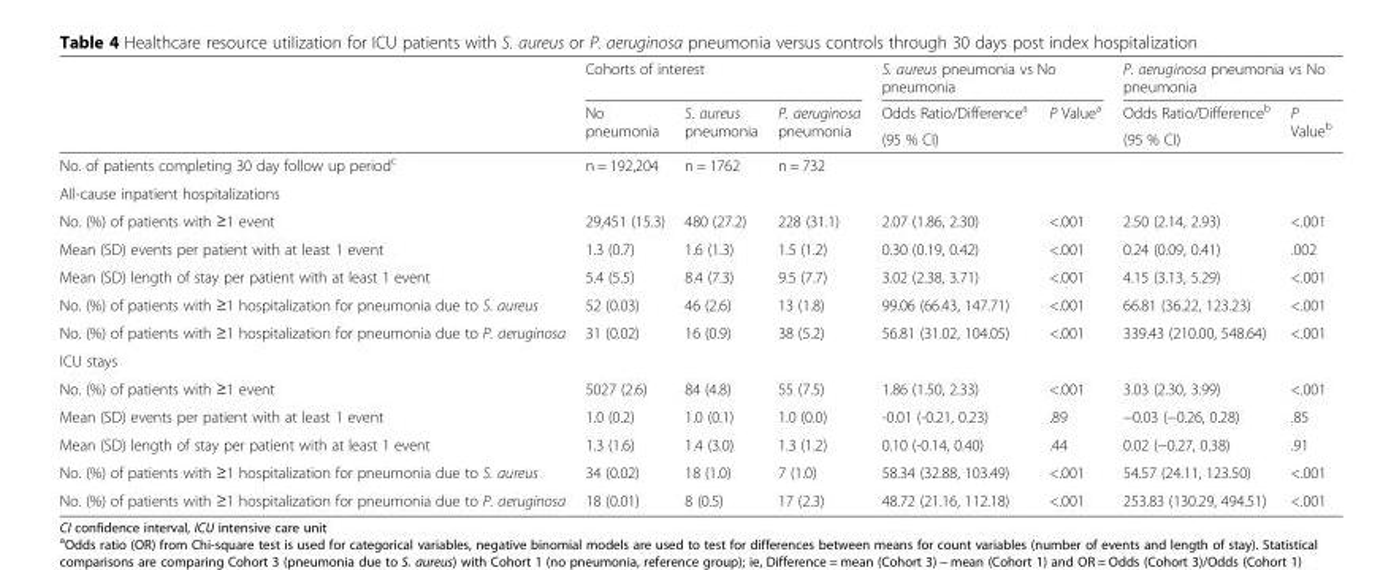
<table><thead><tr><td rowspan="3"></td><td colspan="3">Cohorts of interest</td><td colspan="2">S. aureus pneumonia vs No pneumonia</td><td colspan="2">P. aeruginosa pneumonia vs No pneumonia</td></tr><tr><td rowspan="2">No pneumonia</td><td rowspan="2">S. aureus pneumonia</td><td rowspan="2">P. aeruginosa pneumonia</td><td rowspan="2">Odds Ratio/Difference<sup>a</sup> (95 % CI)</td><td rowspan="2">P Value<sup>a</sup></td><td rowspan="2">Odds Ratio/Difference<sup>b</sup> (95 % CI)</td><td rowspan="2">P Value<sup>b</sup></td></tr><tr></tr></thead><tbody><tr><td>No. of patients completing 30 day follow up period<sup>c</sup></td><td>n = 192,204</td><td>n = 1762</td><td>n = 732</td><td></td><td></td><td></td><td></td></tr><tr><td colspan="8">All-cause inpatient hospitalizations</td></tr><tr><td>No. (%) of patients with ≥1 event</td><td>29,451 (15.3)</td><td>480 (27.2)</td><td>228 (31.1)</td><td>2.07 (1.86, 2.30)</td><td>&lt;.001</td><td>2.50 (2.14, 2.93)</td><td>&lt;.001</td></tr><tr><td>Mean (SD) events per patient with at least 1 event</td><td>1.3 (0.7)</td><td>1.6 (1.3)</td><td>1.5 (1.2)</td><td>0.30 (0.19, 0.42)</td><td>&lt;.001</td><td>0.24 (0.09, 0.41)</td><td>.002</td></tr><tr><td>Mean (SD) length of stay per patient with at least 1 event</td><td>5.4 (5.5)</td><td>8.4 (7.3)</td><td>9.5 (7.7)</td><td>3.02 (2.38, 3.71)</td><td>&lt;.001</td><td>4.15 (3.13, 5.29)</td><td>&lt;.001</td></tr><tr><td>No. (%) of patients with ≥1 hospitalization for pneumonia due to S. aureus</td><td>52 (0.03)</td><td>46 (2.6)</td><td>13 (1.8)</td><td>99.06 (66.43, 147.71)</td><td>&lt;.001</td><td>66.81 (36.22, 123.23)</td><td>&lt;.001</td></tr><tr><td>No. (%) of patients with ≥1 hospitalization for pneumonia due to P. aeruginosa</td><td>31 (0.02)</td><td>16 (0.9)</td><td>38 (5.2)</td><td>56.81 (31.02, 104.05)</td><td>&lt;.001</td><td>339.43 (210.00, 548.64)</td><td>&lt;.001</td></tr><tr><td colspan="8">ICU stays</td></tr><tr><td>No. (%) of patients with ≥1 event</td><td>5027 (2.6)</td><td>84 (4.8)</td><td>55 (7.5)</td><td>1.86 (1.50, 2.33)</td><td>&lt;.001</td><td>3.03 (2.30, 3.99)</td><td>&lt;.001</td></tr><tr><td>Mean (SD) events per patient with at least 1 event</td><td>1.0 (0.2)</td><td>1.0 (0.1)</td><td>1.0 (0.0)</td><td>-0.01 (-0.21, 0.23)</td><td>.89</td><td>−0.03 (−0.26, 0.28)</td><td>.85</td></tr><tr><td>Mean (SD) length of stay per patient with at least 1 event</td><td>1.3 (1.6)</td><td>1.4 (3.0)</td><td>1.3 (1.2)</td><td>0.10 (-0.14, 0.40)</td><td>.44</td><td>0.02 (−0.27, 0.38)</td><td>.91</td></tr><tr><td>No. (%) of patients with ≥1 hospitalization for pneumonia due to S. aureus</td><td>34 (0.02)</td><td>18 (1.0)</td><td>7 (1.0)</td><td>58.34 (32.88, 103.49)</td><td>&lt;.001</td><td>54.57 (24.11, 123.50)</td><td>&lt;.001</td></tr><tr><td>No. (%) of patients with ≥1 hospitalization for pneumonia due to P. aeruginosa</td><td>18 (0.01)</td><td>8 (0.5)</td><td>17 (2.3)</td><td>48.72 (21.16, 112.18)</td><td>&lt;.001</td><td>253.83 (130.29, 494.51)</td><td>&lt;.001</td></tr></tbody></table>